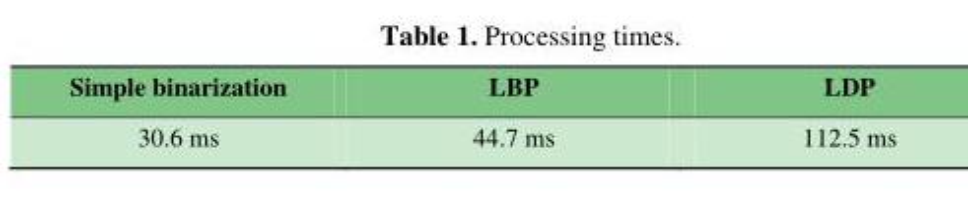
<table><thead><tr><td>Simple binarization</td><td>LBP</td><td>LDP</td></tr></thead><tbody><tr><td>30.6 ms</td><td>44.7 ms</td><td>112.5 ms</td></tr></tbody></table>